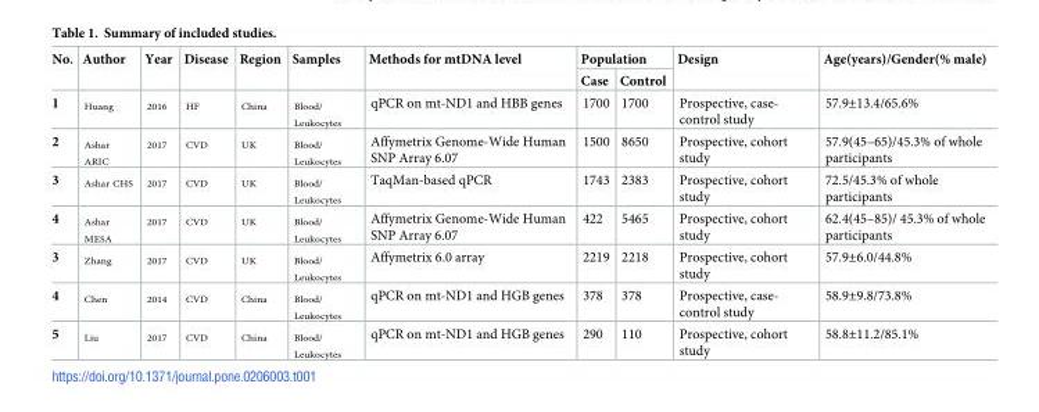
<table><thead><tr><td rowspan="2">No.</td><td rowspan="2">Author</td><td rowspan="2">Year</td><td rowspan="2">Disease</td><td rowspan="2">Region</td><td rowspan="2">Samples</td><td rowspan="2">Methods for mtDNA level</td><td colspan="2">Population</td><td rowspan="2">Design</td><td rowspan="2">Age(years)/Gender(% male)</td></tr><tr><td>Case</td><td>Control</td></tr></thead><tbody><tr><td>1</td><td><sub>Huang</sub></td><td><sub>2016</sub></td><td><sub>HF</sub></td><td><sub>China</sub></td><td><sub>Blood/ Leukocytes</sub></td><td>qPCR on mt-ND1 and HBB genes</td><td>1700</td><td>1700</td><td>Prospective, case- control study</td><td>57.9±13.4/65.6%</td></tr><tr><td>2</td><td><sub>Ashar ARIC</sub></td><td><sub>2017</sub></td><td><sub>CVD</sub></td><td><sub>UK</sub></td><td><sub>Blood/ Leukocytes</sub></td><td>Affymetrix Genome-Wide Human SNP Array 6.07</td><td>1500</td><td>8650</td><td>Prospective, cohort study</td><td>57.9(45–65)/45.3% of whole participants</td></tr><tr><td>3</td><td><sub>Ashar CHS</sub></td><td><sub>2017</sub></td><td><sub>CVD</sub></td><td><sub>UK</sub></td><td><sub>Blood/ Leukocytes</sub></td><td>TaqMan-based qPCR</td><td>1743</td><td>2383</td><td>Prospective, cohort study</td><td>72.5/45.3% of whole participants</td></tr><tr><td>4</td><td><sub>Ashar MESA</sub></td><td><sub>2017</sub></td><td><sub>CVD</sub></td><td><sub>UK</sub></td><td><sub>Blood/ Leukocytes</sub></td><td>Affymetrix Genome-Wide Human SNP Array 6.07</td><td>422</td><td>5465</td><td>Prospective, cohort study</td><td>62.4(45–85)/ 45.3% of whole participants</td></tr><tr><td>3</td><td><sub>Zhang</sub></td><td><sub>2017</sub></td><td><sub>CVD</sub></td><td><sub>UK</sub></td><td><sub>Blood/ Leukocytes</sub></td><td>Affymetrix 6.0 array</td><td>2219</td><td>2218</td><td>Prospective, cohort study</td><td>57.9±6.0/44.8%</td></tr><tr><td>4</td><td><sub>Chen</sub></td><td><sub>2014</sub></td><td><sub>CVD</sub></td><td><sub>China</sub></td><td><sub>Blood/ Leukocytes</sub></td><td>qPCR on mt-ND1 and HGB genes</td><td>378</td><td>378</td><td>Prospective, case- control study</td><td>58.9±9.8/73.8%</td></tr><tr><td>5</td><td><sub>Liu</sub></td><td><sub>2017</sub></td><td><sub>CVD</sub></td><td><sub>China</sub></td><td><sub>Blood/ Leukocytes</sub></td><td>qPCR on mt-ND1 and HGB genes</td><td>290</td><td>110</td><td>Prospective, cohort study</td><td>58.8±11.2/85.1%</td></tr></tbody></table>